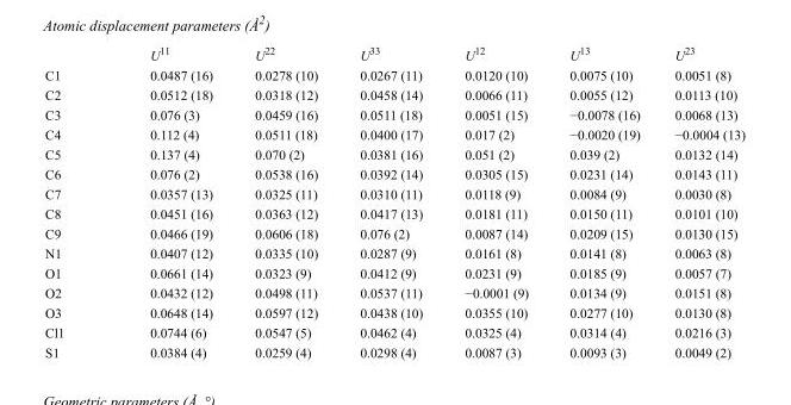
<table><thead><tr><td></td><td>U<sup>11</sup></td><td>U<sup>22</sup></td><td>U<sup>33</sup></td><td>U<sup>12</sup></td><td>U<sup>13</sup></td><td>U<sup>23</sup></td></tr></thead><tbody><tr><td>C1</td><td>0.0487 (16)</td><td>0.0278 (10)</td><td>0.0267 (11)</td><td>0.0120 (10)</td><td>0.0075 (10)</td><td>0.0051 (8)</td></tr><tr><td>C2</td><td>0.0512 (18)</td><td>0.0318 (12)</td><td>0.0458 (14)</td><td>0.0066 (11)</td><td>0.0055 (12)</td><td>0.0113 (10)</td></tr><tr><td>C3</td><td>0.076 (3)</td><td>0.0459 (16)</td><td>0.0511 (18)</td><td>0.0051 (15)</td><td>−0.0078 (16)</td><td>0.0068 (13)</td></tr><tr><td>C4</td><td>0.112 (4)</td><td>0.0511 (18)</td><td>0.0400 (17)</td><td>0.017 (2)</td><td>−0.0020 (19)</td><td>−0.0004 (13)</td></tr><tr><td>C5</td><td>0.137 (4)</td><td>0.070 (2)</td><td>0.0381 (16)</td><td>0.051 (2)</td><td>0.039 (2)</td><td>0.0132 (14)</td></tr><tr><td>C6</td><td>0.076 (2)</td><td>0.0538 (16)</td><td>0.0392 (14)</td><td>0.0305 (15)</td><td>0.0231 (14)</td><td>0.0143 (11)</td></tr><tr><td>C7</td><td>0.0357 (13)</td><td>0.0325 (11)</td><td>0.0310 (11)</td><td>0.0118 (9)</td><td>0.0084 (9)</td><td>0.0030 (8)</td></tr><tr><td>C8</td><td>0.0451 (16)</td><td>0.0363 (12)</td><td>0.0417 (13)</td><td>0.0181 (11)</td><td>0.0150 (11)</td><td>0.0101 (10)</td></tr><tr><td>C9</td><td>0.0466 (19)</td><td>0.0606 (18)</td><td>0.076 (2)</td><td>0.0087 (14)</td><td>0.0209 (15)</td><td>0.0130 (15)</td></tr><tr><td>N1</td><td>0.0407 (12)</td><td>0.0335 (10)</td><td>0.0287 (9)</td><td>0.0161 (8)</td><td>0.0141 (8)</td><td>0.0063 (8)</td></tr><tr><td>O1</td><td>0.0661 (14)</td><td>0.0323 (9)</td><td>0.0412 (9)</td><td>0.0231 (9)</td><td>0.0185 (9)</td><td>0.0057 (7)</td></tr><tr><td>O2</td><td>0.0432 (12)</td><td>0.0498 (11)</td><td>0.0537 (11)</td><td>−0.0001 (9)</td><td>0.0134 (9)</td><td>0.0151 (8)</td></tr><tr><td>O3</td><td>0.0648 (14)</td><td>0.0597 (12)</td><td>0.0438 (10)</td><td>0.0355 (10)</td><td>0.0277 (10)</td><td>0.0130 (8)</td></tr><tr><td>Cl1</td><td>0.0744 (6)</td><td>0.0547 (5)</td><td>0.0462 (4)</td><td>0.0325 (4)</td><td>0.0314 (4)</td><td>0.0216 (3)</td></tr><tr><td>S1</td><td>0.0384 (4)</td><td>0.0259 (4)</td><td>0.0298 (4)</td><td>0.0087 (3)</td><td>0.0093 (3)</td><td>0.0049 (2)</td></tr></tbody></table>